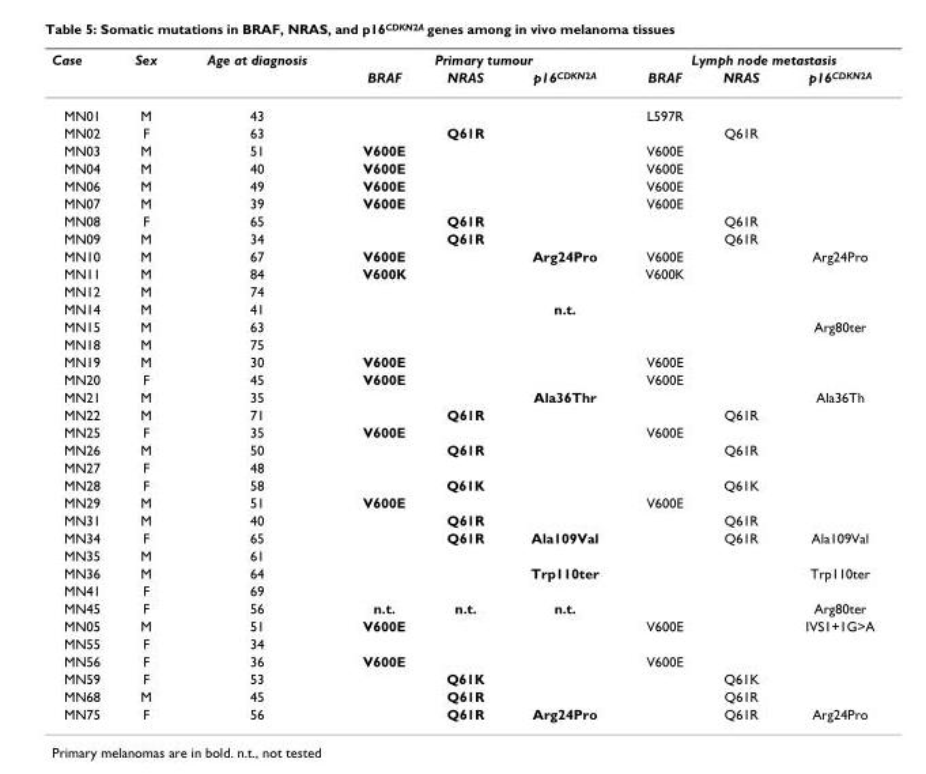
<table><thead><tr><td rowspan="2">Case</td><td rowspan="2">Sex</td><td rowspan="2">Age at diagnosis</td><td colspan="3">Primary tumour</td><td colspan="3">Lymph node metastasis</td></tr><tr><td>BRAF</td><td>NRAS</td><td>p16<sup>CDKN2A</sup></td><td>BRAF</td><td>NRAS</td><td>p16<sup>CDKN2A</sup></td></tr></thead><tbody><tr><td>MN01</td><td>M</td><td>43</td><td></td><td></td><td></td><td>L597R</td><td></td><td></td></tr><tr><td>MN02</td><td>F</td><td>63</td><td></td><td>Q61R</td><td></td><td></td><td>Q61R</td><td></td></tr><tr><td>MN03</td><td>M</td><td>51</td><td>V600E</td><td></td><td></td><td>V600E</td><td></td><td></td></tr><tr><td>MN04</td><td>M</td><td>40</td><td>V600E</td><td></td><td></td><td>V600E</td><td></td><td></td></tr><tr><td>MN06</td><td>M</td><td>49</td><td>V600E</td><td></td><td></td><td>V600E</td><td></td><td></td></tr><tr><td>MN07</td><td>M</td><td>39</td><td>V600E</td><td></td><td></td><td>V600E</td><td></td><td></td></tr><tr><td>MN08</td><td>F</td><td>65</td><td></td><td>Q61R</td><td></td><td></td><td>Q61R</td><td></td></tr><tr><td>MN09</td><td>M</td><td>34</td><td></td><td>Q61R</td><td></td><td></td><td>Q61R</td><td></td></tr><tr><td>MN10</td><td>M</td><td>67</td><td>V600E</td><td></td><td>Arg24Pro</td><td>V600E</td><td></td><td>Arg24Pro</td></tr><tr><td>MN11</td><td>M</td><td>84</td><td>V600K</td><td></td><td></td><td>V600K</td><td></td><td></td></tr><tr><td>MN12</td><td>M</td><td>74</td><td></td><td></td><td></td><td></td><td></td><td></td></tr><tr><td>MN14</td><td>M</td><td>41</td><td></td><td></td><td>n.t.</td><td></td><td></td><td></td></tr><tr><td>MN15</td><td>M</td><td>63</td><td></td><td></td><td></td><td></td><td></td><td>Arg80ter</td></tr><tr><td>MN18</td><td>M</td><td>75</td><td></td><td></td><td></td><td></td><td></td><td></td></tr><tr><td>MN19</td><td>M</td><td>30</td><td>V600E</td><td></td><td></td><td>V600E</td><td></td><td></td></tr><tr><td>MN20</td><td>F</td><td>45</td><td>V600E</td><td></td><td></td><td>V600E</td><td></td><td></td></tr><tr><td>MN21</td><td>M</td><td>35</td><td></td><td></td><td>Ala36Thr</td><td></td><td></td><td>Ala36Th</td></tr><tr><td>MN22</td><td>M</td><td>71</td><td></td><td>Q61R</td><td></td><td></td><td>Q61R</td><td></td></tr><tr><td>MN25</td><td>F</td><td>35</td><td>V600E</td><td></td><td></td><td>V600E</td><td></td><td></td></tr><tr><td>MN26</td><td>M</td><td>50</td><td></td><td>Q61R</td><td></td><td></td><td>Q61R</td><td></td></tr><tr><td>MN27</td><td>F</td><td>48</td><td></td><td></td><td></td><td></td><td></td><td></td></tr><tr><td>MN28</td><td>F</td><td>58</td><td></td><td>Q61K</td><td></td><td></td><td>Q61K</td><td></td></tr><tr><td>MN29</td><td>M</td><td>51</td><td>V600E</td><td></td><td></td><td>V600E</td><td></td><td></td></tr><tr><td>MN31</td><td>M</td><td>40</td><td></td><td>Q61R</td><td></td><td></td><td>Q61R</td><td></td></tr><tr><td>MN34</td><td>F</td><td>65</td><td></td><td>Q61R</td><td>Ala109Val</td><td></td><td>Q61R</td><td>Ala109Val</td></tr><tr><td>MN35</td><td>M</td><td>61</td><td></td><td></td><td></td><td></td><td></td><td></td></tr><tr><td>MN36</td><td>M</td><td>64</td><td></td><td></td><td>Trp110ter</td><td></td><td></td><td>Trp110ter</td></tr><tr><td>MN41</td><td>F</td><td>69</td><td></td><td></td><td></td><td></td><td></td><td></td></tr><tr><td>MN45</td><td>F</td><td>56</td><td>n.t.</td><td>n.t.</td><td>n.t.</td><td></td><td></td><td>Arg80ter</td></tr><tr><td>MN05</td><td>M</td><td>51</td><td>V600E</td><td></td><td></td><td>V600E</td><td></td><td>IVS1+1G&gt;A</td></tr><tr><td>MN55</td><td>F</td><td>34</td><td></td><td></td><td></td><td></td><td></td><td></td></tr><tr><td>MN56</td><td>F</td><td>36</td><td>V600E</td><td></td><td></td><td>V600E</td><td></td><td></td></tr><tr><td>MN59</td><td>F</td><td>53</td><td></td><td>Q61K</td><td></td><td></td><td>Q61K</td><td></td></tr><tr><td>MN68</td><td>M</td><td>45</td><td></td><td>Q61R</td><td></td><td></td><td>Q61R</td><td></td></tr><tr><td>MN75</td><td>F</td><td>56</td><td></td><td>Q61R</td><td>Arg24Pro</td><td></td><td>Q61R</td><td>Arg24Pro</td></tr></tbody></table>